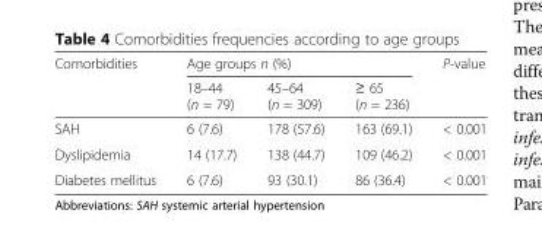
<table><thead><tr><td rowspan="2">Comorbidities</td><td colspan="3">Age groups n (%)</td><td rowspan="2">P-value</td></tr><tr><td>18–44 (n = 79)</td><td>45–64 (n = 309)</td><td>≥ 65 (n = 236)</td></tr></thead><tbody><tr><td>SAH</td><td>6 (7.6)</td><td>178 (57.6)</td><td>163 (69.1)</td><td>&lt; 0.001</td></tr><tr><td>Dyslipidemia</td><td>14 (17.7)</td><td>138 (44.7)</td><td>109 (46.2)</td><td>&lt; 0.001</td></tr><tr><td>Diabetes mellitus</td><td>6 (7.6)</td><td>93 (30.1)</td><td>86 (36.4)</td><td>&lt; 0.001</td></tr></tbody></table>